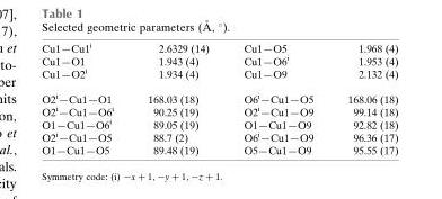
<table><tbody><tr><td>Cu1—Cu1<sup>i</sup></td><td>2.6329 (14)</td><td>Cu1—O5</td><td>1.968 (4)</td></tr><tr><td>Cu1—O1</td><td>1.943 (4)</td><td>Cu1—O6<sup>i</sup></td><td>1.953 (4)</td></tr><tr><td>Cu1—O2<sup>i</sup></td><td>1.934 (4)</td><td>Cu1—O9</td><td>2.132 (4)</td></tr><tr><td>O2<sup>i</sup>—Cu1—O1</td><td>168.03 (18)</td><td>O6<sup>i</sup>—Cu1—O5</td><td>168.06 (18)</td></tr><tr><td>O2<sup>i</sup>—Cu1—O6<sup>i</sup></td><td>90.25 (19)</td><td>O2<sup>i</sup>—Cu1—O9</td><td>99.14 (18)</td></tr><tr><td>O1—Cu1—O6<sup>i</sup></td><td>89.05 (19)</td><td>O1—Cu1—O9</td><td>92.82 (18)</td></tr><tr><td>O2<sup>i</sup>—Cu1—O5</td><td>88.7 (2)</td><td>O6<sup>i</sup>—Cu1—O9</td><td>96.36 (17)</td></tr><tr><td>O1—Cu1—O5</td><td>89.48 (19)</td><td>O5—Cu1—O9</td><td>95.55 (17)</td></tr></tbody></table>